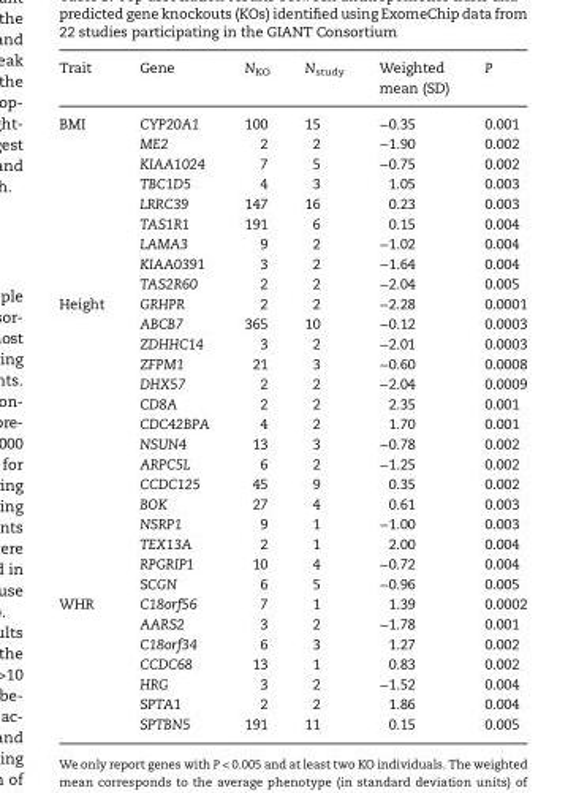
<table><thead><tr><td>Trait</td><td>Gene</td><td>N<sub>KO</sub></td><td>N<sub>study</sub></td><td>Weighted mean (SD)</td><td>P</td></tr></thead><tbody><tr><td rowspan="9">BMI</td><td>CYP20A1</td><td>100</td><td>15</td><td>−0.35</td><td>0.001</td></tr><tr><td>ME2</td><td>2</td><td>2</td><td>−1.90</td><td>0.002</td></tr><tr><td>KIAA1024</td><td>7</td><td>5</td><td>−0.75</td><td>0.002</td></tr><tr><td>TBC1D5</td><td>4</td><td>3</td><td>1.05</td><td>0.003</td></tr><tr><td>LRRC39</td><td>147</td><td>16</td><td>0.23</td><td>0.003</td></tr><tr><td>TAS1R1</td><td>191</td><td>6</td><td>0.15</td><td>0.004</td></tr><tr><td>LAMA3</td><td>9</td><td>2</td><td>−1.02</td><td>0.004</td></tr><tr><td>KIAA0391</td><td>3</td><td>2</td><td>−1.64</td><td>0.004</td></tr><tr><td>TAS2R60</td><td>2</td><td>2</td><td>−2.04</td><td>0.005</td></tr><tr><td rowspan="15">Height</td><td>GRHPR</td><td>2</td><td>2</td><td>−2.28</td><td>0.0001</td></tr><tr><td>ABCB7</td><td>365</td><td>10</td><td>−0.12</td><td>0.0003</td></tr><tr><td>ZDHHC14</td><td>3</td><td>2</td><td>−2.01</td><td>0.0003</td></tr><tr><td>ZFPM1</td><td>21</td><td>3</td><td>−0.60</td><td>0.0008</td></tr><tr><td>DHX57</td><td>2</td><td>2</td><td>−2.04</td><td>0.0009</td></tr><tr><td>CD8A</td><td>2</td><td>2</td><td>2.35</td><td>0.001</td></tr><tr><td>CDC42BPA</td><td>4</td><td>2</td><td>1.70</td><td>0.001</td></tr><tr><td>NSUN4</td><td>13</td><td>3</td><td>−0.78</td><td>0.002</td></tr><tr><td>ARPC5L</td><td>6</td><td>2</td><td>−1.25</td><td>0.002</td></tr><tr><td>CCDC125</td><td>45</td><td>9</td><td>0.35</td><td>0.002</td></tr><tr><td>BOK</td><td>27</td><td>4</td><td>0.61</td><td>0.003</td></tr><tr><td>NSRP1</td><td>9</td><td>1</td><td>−1.00</td><td>0.003</td></tr><tr><td>TEX13A</td><td>2</td><td>1</td><td>2.00</td><td>0.004</td></tr><tr><td>RPGRIP1</td><td>10</td><td>4</td><td>−0.72</td><td>0.004</td></tr><tr><td>SCGN</td><td>6</td><td>5</td><td>−0.96</td><td>0.005</td></tr><tr><td rowspan="7">WHR</td><td>C18orf56</td><td>7</td><td>1</td><td>1.39</td><td>0.0002</td></tr><tr><td>AARS2</td><td>3</td><td>2</td><td>−1.78</td><td>0.001</td></tr><tr><td>C18orf34</td><td>6</td><td>3</td><td>1.27</td><td>0.002</td></tr><tr><td>CCDC68</td><td>13</td><td>1</td><td>0.83</td><td>0.002</td></tr><tr><td>HRG</td><td>3</td><td>2</td><td>−1.52</td><td>0.004</td></tr><tr><td>SPTA1</td><td>2</td><td>2</td><td>1.86</td><td>0.004</td></tr><tr><td>SPTBN5</td><td>191</td><td>11</td><td>0.15</td><td>0.005</td></tr></tbody></table>